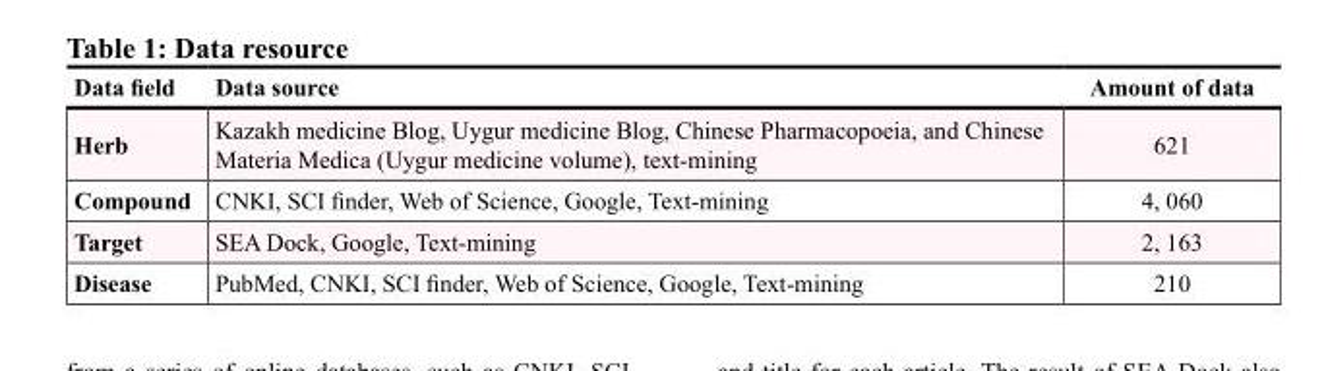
<table><thead><tr><td>Data field</td><td>Data source</td><td>Amount of data</td></tr></thead><tbody><tr><td>Herb</td><td>Kazakh medicine Blog, Uygur medicine Blog, Chinese Pharmacopoeia, and Chinese Materia Medica (Uygur medicine volume), text-mining</td><td>621</td></tr><tr><td>Compound</td><td>CNKI, SCI finder, Web of Science, Google, Text-mining</td><td>4, 060</td></tr><tr><td>Target</td><td>SEA Dock, Google, Text-mining</td><td>2, 163</td></tr><tr><td>Disease</td><td>PubMed, CNKI, SCI finder, Web of Science, Google, Text-mining</td><td>210</td></tr></tbody></table>